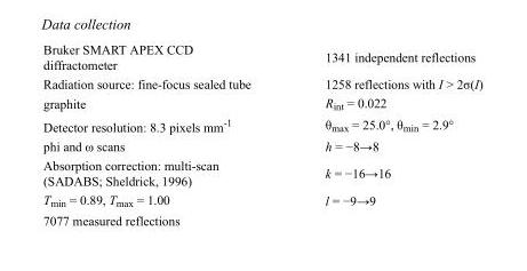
<table><tbody><tr><td>Bruker SMART APEX CCD diffractometer</td><td>1341 independent reflections</td></tr><tr><td>Radiation source: fine-focus sealed tube</td><td>1258 reflections with I &gt; 2σ(I)</td></tr><tr><td>graphite</td><td>R<sub>int</sub> = 0.022</td></tr><tr><td>Detector resolution: 8.3 pixels mm<sup>-1</sup></td><td>θ<sub>max</sub> = 25.0°, θ<sub>min</sub> = 2.9°</td></tr><tr><td>phi and ω scans</td><td>h = −8→8</td></tr><tr><td>Absorption correction: multi-scan (SADABS; Sheldrick, 1996)</td><td>k = −16→16</td></tr><tr><td>T<sub>min</sub> = 0.89, T<sub>max</sub> = 1.00</td><td>l = −9→9</td></tr><tr><td>7077 measured reflections</td><td></td></tr></tbody></table>